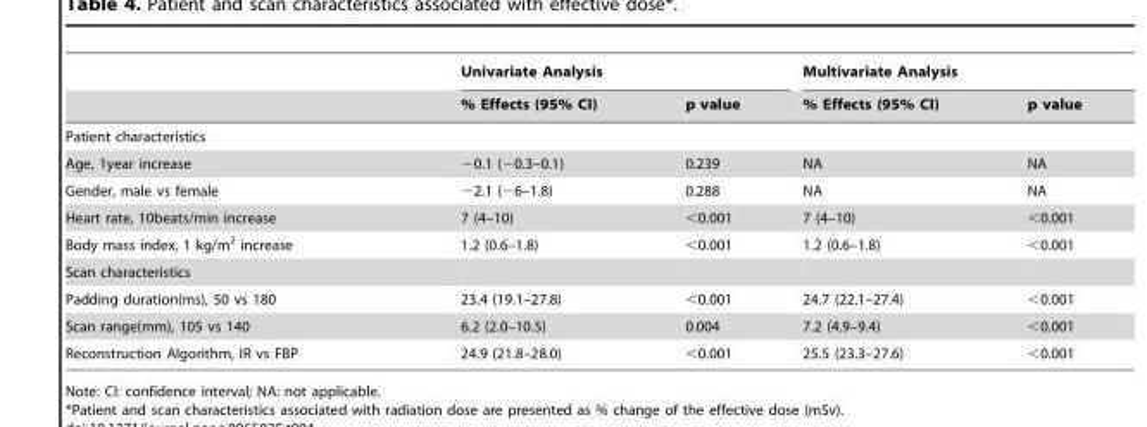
<table><thead><tr><td rowspan="2"></td><td colspan="2">Univariate Analysis</td><td colspan="2">Multivariate Analysis</td></tr><tr><td>% Effects (95% CI)</td><td>p value</td><td>% Effects (95% CI)</td><td>p value</td></tr></thead><tbody><tr><td colspan="5">Patient characteristics</td></tr><tr><td>Age, 1year increase</td><td>−0.1 (−0.3–0.1)</td><td>0.239</td><td>NA</td><td>NA</td></tr><tr><td>Gender, male vs female</td><td>−2.1 (−6–1.8)</td><td>0.288</td><td>NA</td><td>NA</td></tr><tr><td>Heart rate, 10beats/min increase</td><td>7 (4–10)</td><td>&lt;0.001</td><td>7 (4–10)</td><td>&lt;0.001</td></tr><tr><td>Body mass index, 1 kg/m<sup>2</sup> increase</td><td>1.2 (0.6–1.8)</td><td>&lt;0.001</td><td>1.2 (0.6–1.8)</td><td>&lt;0.001</td></tr><tr><td colspan="5">Scan characteristics</td></tr><tr><td>Padding duration(ms), 50 vs 180</td><td>23.4 (19.1–27.8)</td><td>&lt;0.001</td><td>24.7 (22.1–27.4)</td><td>&lt;0.001</td></tr><tr><td>Scan range(mm), 105 vs 140</td><td>6.2 (2.0–10.5)</td><td>0.004</td><td>7.2 (4.9–9.4)</td><td>&lt;0.001</td></tr><tr><td>Reconstruction Algorithm, IR vs FBP</td><td>24.9 (21.8–28.0)</td><td>&lt;0.001</td><td>25.5 (23.3–27.6)</td><td>&lt;0.001</td></tr></tbody></table>